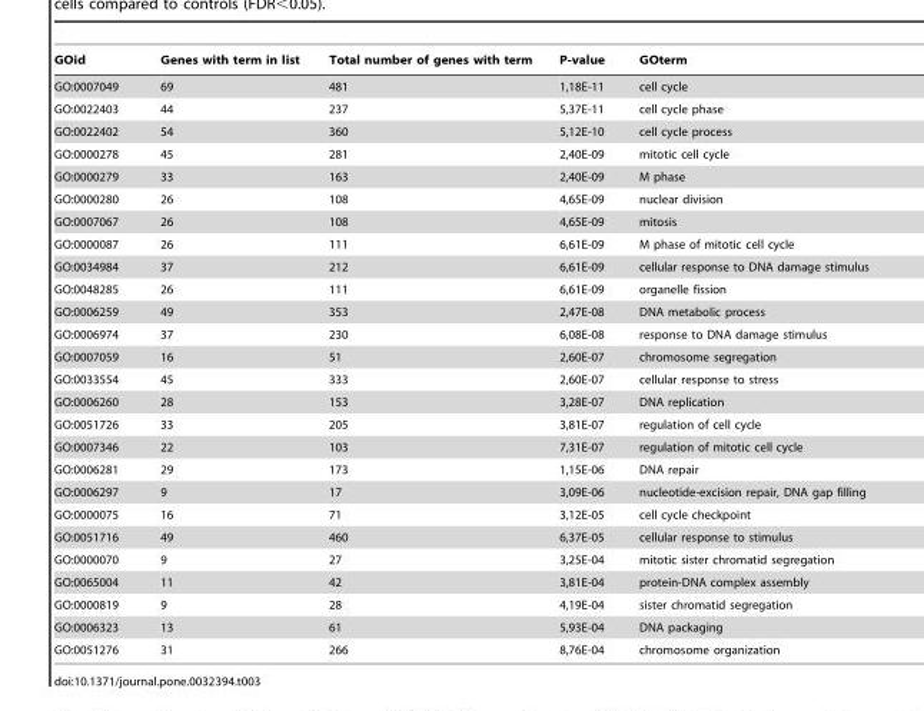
<table><thead><tr><td>GOid</td><td>Genes with term in list</td><td>Total number of genes with term</td><td>P-value</td><td>GOterm</td></tr></thead><tbody><tr><td>GO:0007049</td><td>69</td><td>481</td><td>1,18E-11</td><td>cell cycle</td></tr><tr><td>GO:0022403</td><td>44</td><td>237</td><td>5,37E-11</td><td>cell cycle phase</td></tr><tr><td>GO:0022402</td><td>54</td><td>360</td><td>5,12E-10</td><td>cell cycle process</td></tr><tr><td>GO:0000278</td><td>45</td><td>281</td><td>2,40E-09</td><td>mitotic cell cycle</td></tr><tr><td>GO:0000279</td><td>33</td><td>163</td><td>2,40E-09</td><td>M phase</td></tr><tr><td>GO:0000280</td><td>26</td><td>108</td><td>4,65E-09</td><td>nuclear division</td></tr><tr><td>GO:0007067</td><td>26</td><td>108</td><td>4,65E-09</td><td>mitosis</td></tr><tr><td>GO:0000087</td><td>26</td><td>111</td><td>6,61E-09</td><td>M phase of mitotic cell cycle</td></tr><tr><td>GO:0034984</td><td>37</td><td>212</td><td>6,61E-09</td><td>cellular response to DNA damage stimulus</td></tr><tr><td>GO:0048285</td><td>26</td><td>111</td><td>6,61E-09</td><td>organelle fission</td></tr><tr><td>GO:0006259</td><td>49</td><td>353</td><td>2,47E-08</td><td>DNA metabolic process</td></tr><tr><td>GO:0006974</td><td>37</td><td>230</td><td>6,08E-08</td><td>response to DNA damage stimulus</td></tr><tr><td>GO:0007059</td><td>16</td><td>51</td><td>2,60E-07</td><td>chromosome segregation</td></tr><tr><td>GO:0033554</td><td>45</td><td>333</td><td>2,60E-07</td><td>cellular response to stress</td></tr><tr><td>GO:0006260</td><td>28</td><td>153</td><td>3,28E-07</td><td>DNA replication</td></tr><tr><td>GO:0051726</td><td>33</td><td>205</td><td>3,81E-07</td><td>regulation of cell cycle</td></tr><tr><td>GO:0007346</td><td>22</td><td>103</td><td>7,31E-07</td><td>regulation of mitotic cell cycle</td></tr><tr><td>GO:0006281</td><td>29</td><td>173</td><td>1,15E-06</td><td>DNA repair</td></tr><tr><td>GO:0006297</td><td>9</td><td>17</td><td>3,09E-06</td><td>nucleotide-excision repair, DNA gap filling</td></tr><tr><td>GO:0000075</td><td>16</td><td>71</td><td>3,12E-05</td><td>cell cycle checkpoint</td></tr><tr><td>GO:0051716</td><td>49</td><td>460</td><td>6,37E-05</td><td>cellular response to stimulus</td></tr><tr><td>GO:0000070</td><td>9</td><td>27</td><td>3,25E-04</td><td>mitotic sister chromatid segregation</td></tr><tr><td>GO:0065004</td><td>11</td><td>42</td><td>3,81E-04</td><td>protein-DNA complex assembly</td></tr><tr><td>GO:0000819</td><td>9</td><td>28</td><td>4,19E-04</td><td>sister chromatid segregation</td></tr><tr><td>GO:0006323</td><td>13</td><td>61</td><td>5,93E-04</td><td>DNA packaging</td></tr><tr><td>GO:0051276</td><td>31</td><td>266</td><td>8,76E-04</td><td>chromosome organization</td></tr></tbody></table>